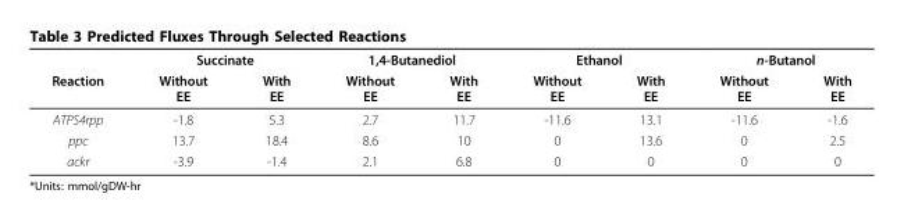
<table><thead><tr><td rowspan="2">Reaction</td><td colspan="2">Succinate</td><td colspan="2">1,4-Butanediol</td><td colspan="2">Ethanol</td><td colspan="2">n-Butanol</td></tr><tr><td>Without EE</td><td>With EE</td><td>Without EE</td><td>With EE</td><td>Without EE</td><td>With EE</td><td>Without EE</td><td>With EE</td></tr></thead><tbody><tr><td>ATPS4rpp</td><td>-1.8</td><td>5.3</td><td>2.7</td><td>11.7</td><td>-11.6</td><td>13.1</td><td>-11.6</td><td>-1.6</td></tr><tr><td>ppc</td><td>13.7</td><td>18.4</td><td>8.6</td><td>10</td><td>0</td><td>13.6</td><td>0</td><td>2.5</td></tr><tr><td>ackr</td><td>-3.9</td><td>-1.4</td><td>2.1</td><td>6.8</td><td>0</td><td>0</td><td>0</td><td>0</td></tr></tbody></table>